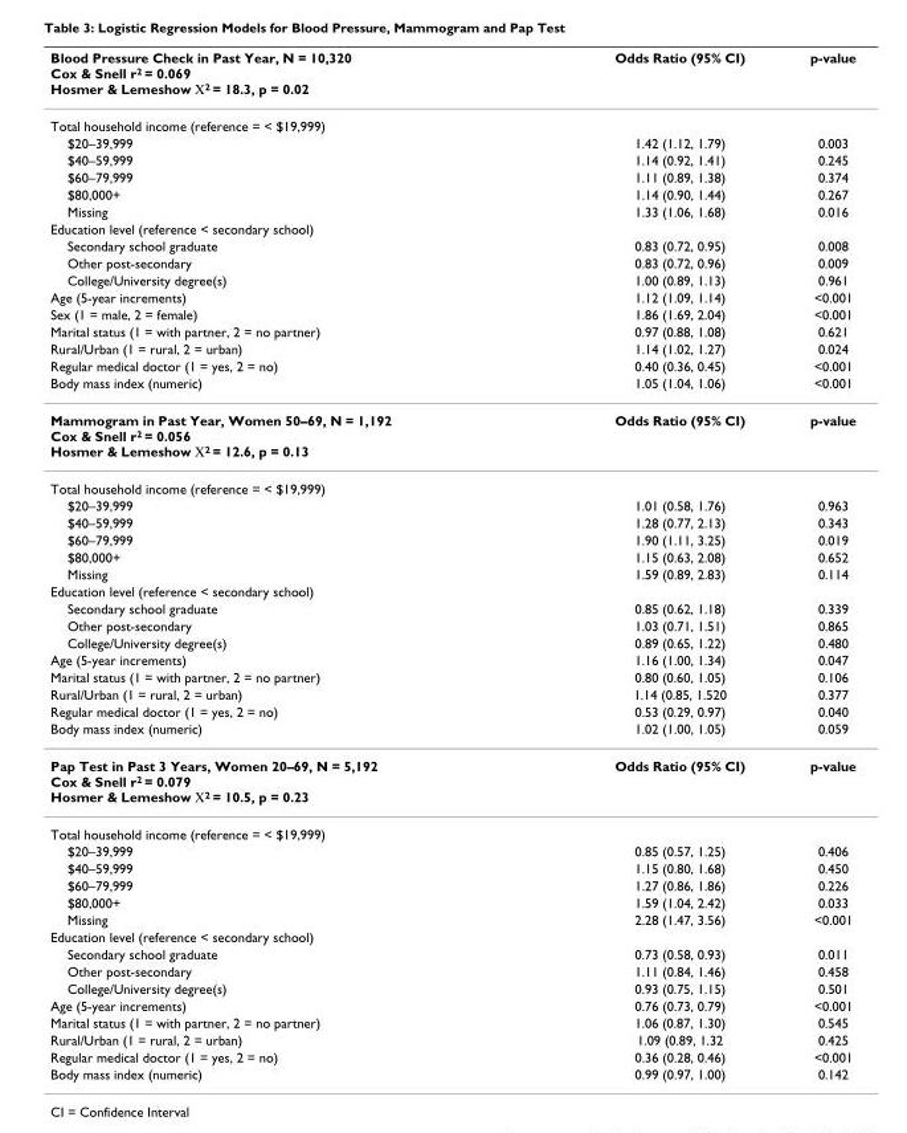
<table><thead><tr><td>Blood Pressure Check in Past Year, N = 10,320 Cox &amp; Snell r2 = 0.069 Hosmer &amp; Lemeshow Χ2 = 18.3, p = 0.02</td><td>Odds Ratio (95% CI)</td><td>p-value</td></tr></thead><tbody><tr><td colspan="3">Total household income (reference = &lt; $19,999)</td></tr><tr><td>$20–39,999</td><td>1.42 (1.12, 1.79)</td><td>0.003</td></tr><tr><td>$40–59,999</td><td>1.14 (0.92, 1.41)</td><td>0.245</td></tr><tr><td>$60–79,999</td><td>1.11 (0.89, 1.38)</td><td>0.374</td></tr><tr><td>$80,000+</td><td>1.14 (0.90, 1.44)</td><td>0.267</td></tr><tr><td>Missing</td><td>1.33 (1.06, 1.68)</td><td>0.016</td></tr><tr><td colspan="3">Education level (reference &lt; secondary school)</td></tr><tr><td>Secondary school graduate</td><td>0.83 (0.72, 0.95)</td><td>0.008</td></tr><tr><td>Other post-secondary</td><td>0.83 (0.72, 0.96)</td><td>0.009</td></tr><tr><td>College/University degree(s)</td><td>1.00 (0.89, 1.13)</td><td>0.961</td></tr><tr><td>Age (5-year increments)</td><td>1.12 (1.09, 1.14)</td><td>&lt;0.001</td></tr><tr><td>Sex (1 = male, 2 = female)</td><td>1.86 (1.69, 2.04)</td><td>&lt;0.001</td></tr><tr><td>Marital status (1 = with partner, 2 = no partner)</td><td>0.97 (0.88, 1.08)</td><td>0.621</td></tr><tr><td>Rural/Urban (1 = rural, 2 = urban)</td><td>1.14 (1.02, 1.27)</td><td>0.024</td></tr><tr><td>Regular medical doctor (1 = yes, 2 = no)</td><td>0.40 (0.36, 0.45)</td><td>&lt;0.001</td></tr><tr><td>Body mass index (numeric)</td><td>1.05 (1.04, 1.06)</td><td>&lt;0.001</td></tr><tr><td>Mammogram in Past Year, Women 50–69, N = 1,192 Cox &amp; Snell r2 = 0.056 Hosmer &amp; Lemeshow Χ2 = 12.6, p = 0.13</td><td>Odds Ratio (95% CI)</td><td>p-value</td></tr><tr><td colspan="3">Total household income (reference = &lt; $19,999)</td></tr><tr><td>$20–39,999</td><td>1.01 (0.58, 1.76)</td><td>0.963</td></tr><tr><td>$40–59,999</td><td>1.28 (0.77, 2.13)</td><td>0.343</td></tr><tr><td>$60–79,999</td><td>1.90 (1.11, 3.25)</td><td>0.019</td></tr><tr><td>$80,000+</td><td>1.15 (0.63, 2.08)</td><td>0.652</td></tr><tr><td>Missing</td><td>1.59 (0.89, 2.83)</td><td>0.114</td></tr><tr><td colspan="3">Education level (reference &lt; secondary school)</td></tr><tr><td>Secondary school graduate</td><td>0.85 (0.62, 1.18)</td><td>0.339</td></tr><tr><td>Other post-secondary</td><td>1.03 (0.71, 1.51)</td><td>0.865</td></tr><tr><td>College/University degree(s)</td><td>0.89 (0.65, 1.22)</td><td>0.480</td></tr><tr><td>Age (5-year increments)</td><td>1.16 (1.00, 1.34)</td><td>0.047</td></tr><tr><td>Marital status (1 = with partner, 2 = no partner)</td><td>0.80 (0.60, 1.05)</td><td>0.106</td></tr><tr><td>Rural/Urban (1 = rural, 2 = urban)</td><td>1.14 (0.85, 1.520</td><td>0.377</td></tr><tr><td>Regular medical doctor (1 = yes, 2 = no)</td><td>0.53 (0.29, 0.97)</td><td>0.040</td></tr><tr><td>Body mass index (numeric)</td><td>1.02 (1.00, 1.05)</td><td>0.059</td></tr><tr><td>Pap Test in Past 3 Years, Women 20–69, N = 5,192 Cox &amp; Snell r2 = 0.079 Hosmer &amp; Lemeshow Χ2 = 10.5, p = 0.23</td><td>Odds Ratio (95% CI)</td><td>p-value</td></tr><tr><td colspan="3">Total household income (reference = &lt; $19,999)</td></tr><tr><td>$20–39,999</td><td>0.85 (0.57, 1.25)</td><td>0.406</td></tr><tr><td>$40–59,999</td><td>1.15 (0.80, 1.68)</td><td>0.450</td></tr><tr><td>$60–79,999</td><td>1.27 (0.86, 1.86)</td><td>0.226</td></tr><tr><td>$80,000+</td><td>1.59 (1.04, 2.42)</td><td>0.033</td></tr><tr><td>Missing</td><td>2.28 (1.47, 3.56)</td><td>&lt;0.001</td></tr><tr><td colspan="3">Education level (reference &lt; secondary school)</td></tr><tr><td>Secondary school graduate</td><td>0.73 (0.58, 0.93)</td><td>0.011</td></tr><tr><td>Other post-secondary</td><td>1.11 (0.84, 1.46)</td><td>0.458</td></tr><tr><td>College/University degree(s)</td><td>0.93 (0.75, 1.15)</td><td>0.501</td></tr><tr><td>Age (5-year increments)</td><td>0.76 (0.73, 0.79)</td><td>&lt;0.001</td></tr><tr><td>Marital status (1 = with partner, 2 = no partner)</td><td>1.06 (0.87, 1.30)</td><td>0.545</td></tr><tr><td>Rural/Urban (1 = rural, 2 = urban)</td><td>1.09 (0.89, 1.32</td><td>0.425</td></tr><tr><td>Regular medical doctor (1 = yes, 2 = no)</td><td>0.36 (0.28, 0.46)</td><td>&lt;0.001</td></tr><tr><td>Body mass index (numeric)</td><td>0.99 (0.97, 1.00)</td><td>0.142</td></tr></tbody></table>